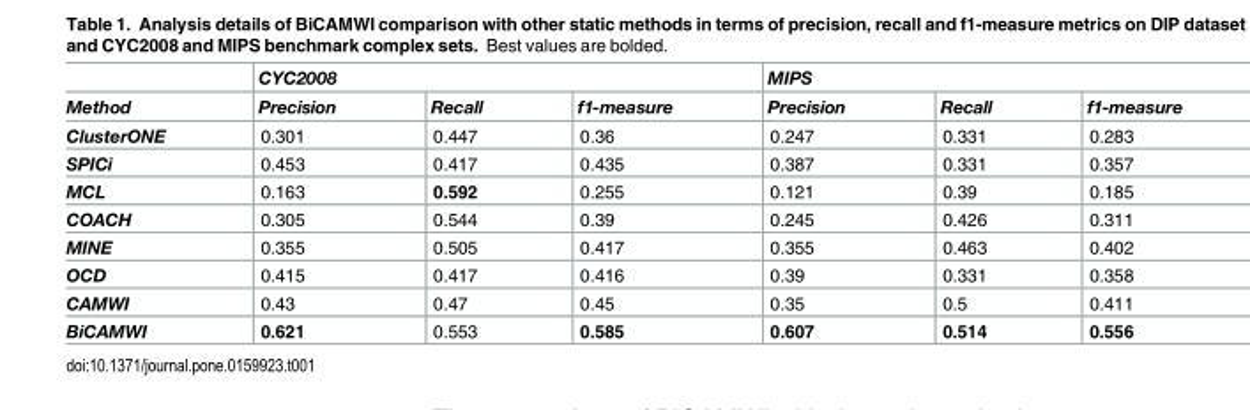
<table><thead><tr><td rowspan="2">Method</td><td colspan="3">CYC2008</td><td colspan="3">MIPS</td></tr><tr><td>Precision</td><td>Recall</td><td>f1-measure</td><td>Precision</td><td>Recall</td><td>f1-measure</td></tr></thead><tbody><tr><td>ClusterONE</td><td>0.301</td><td>0.447</td><td>0.36</td><td>0.247</td><td>0.331</td><td>0.283</td></tr><tr><td>SPICi</td><td>0.453</td><td>0.417</td><td>0.435</td><td>0.387</td><td>0.331</td><td>0.357</td></tr><tr><td>MCL</td><td>0.163</td><td>0.592</td><td>0.255</td><td>0.121</td><td>0.39</td><td>0.185</td></tr><tr><td>COACH</td><td>0.305</td><td>0.544</td><td>0.39</td><td>0.245</td><td>0.426</td><td>0.311</td></tr><tr><td>MINE</td><td>0.355</td><td>0.505</td><td>0.417</td><td>0.355</td><td>0.463</td><td>0.402</td></tr><tr><td>OCD</td><td>0.415</td><td>0.417</td><td>0.416</td><td>0.39</td><td>0.331</td><td>0.358</td></tr><tr><td>CAMWI</td><td>0.43</td><td>0.47</td><td>0.45</td><td>0.35</td><td>0.5</td><td>0.411</td></tr><tr><td>BiCAMWI</td><td>0.621</td><td>0.553</td><td>0.585</td><td>0.607</td><td>0.514</td><td>0.556</td></tr></tbody></table>